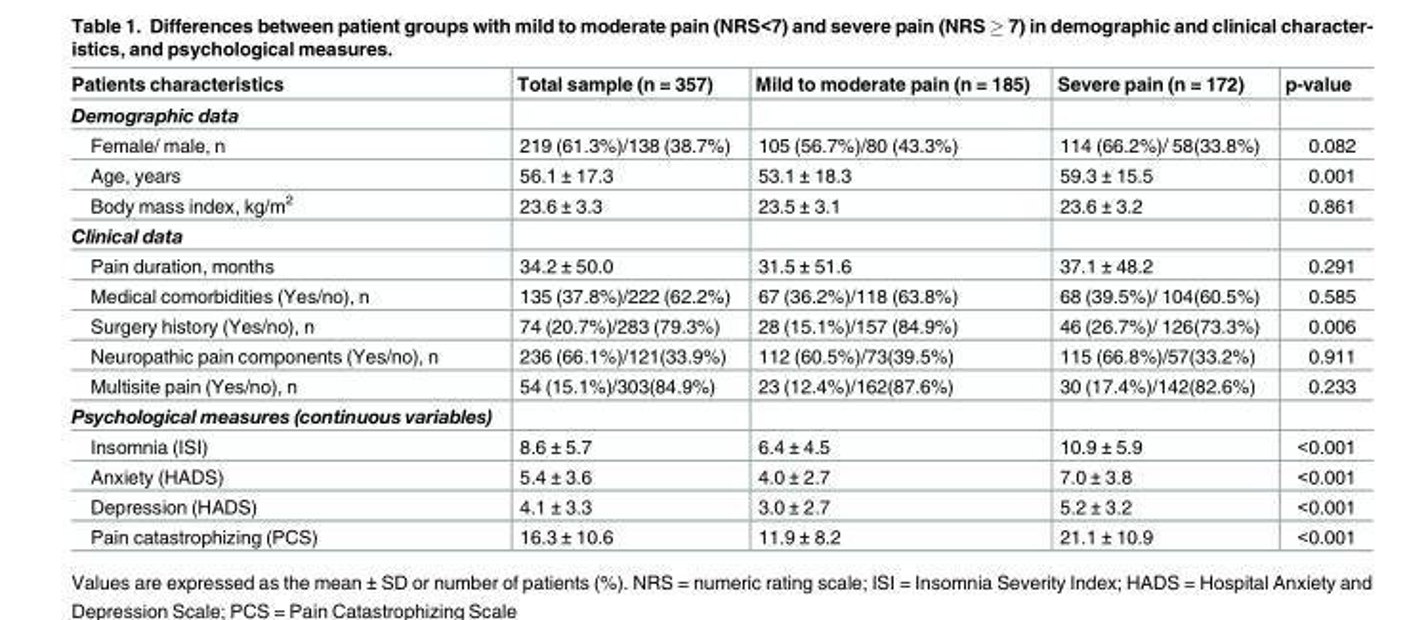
<table><thead><tr><td>Patients characteristics</td><td>Total sample (n = 357)</td><td>Mild to moderate pain (n = 185)</td><td>Severe pain (n = 172)</td><td>p-value</td></tr></thead><tbody><tr><td colspan="5">Demographic data</td></tr><tr><td>Female/ male, n</td><td>219 (61.3%)/138 (38.7%)</td><td>105 (56.7%)/80 (43.3%)</td><td>114 (66.2%)/ 58(33.8%)</td><td>0.082</td></tr><tr><td>Age, years</td><td>56.1 ± 17.3</td><td>53.1 ± 18.3</td><td>59.3 ± 15.5</td><td>0.001</td></tr><tr><td>Body mass index, kg/m<sup>2</sup></td><td>23.6 ± 3.3</td><td>23.5 ± 3.1</td><td>23.6 ± 3.2</td><td>0.861</td></tr><tr><td colspan="5">Clinical data</td></tr><tr><td>Pain duration, months</td><td>34.2 ± 50.0</td><td>31.5 ± 51.6</td><td>37.1 ± 48.2</td><td>0.291</td></tr><tr><td>Medical comorbidities (Yes/no), n</td><td>135 (37.8%)/222 (62.2%)</td><td>67 (36.2%)/118 (63.8%)</td><td>68 (39.5%)/ 104(60.5%)</td><td>0.585</td></tr><tr><td>Surgery history (Yes/no), n</td><td>74 (20.7%)/283 (79.3%)</td><td>28 (15.1%)/157 (84.9%)</td><td>46 (26.7%)/ 126(73.3%)</td><td>0.006</td></tr><tr><td>Neuropathic pain components (Yes/no), n</td><td>236 (66.1%)/121(33.9%)</td><td>112 (60.5%)/73(39.5%)</td><td>115 (66.8%)/57(33.2%)</td><td>0.911</td></tr><tr><td>Multisite pain (Yes/no), n</td><td>54 (15.1%)/303(84.9%)</td><td>23 (12.4%)/162(87.6%)</td><td>30 (17.4%)/142(82.6%)</td><td>0.233</td></tr><tr><td colspan="5">Psychological measures (continuous variables)</td></tr><tr><td>Insomnia (ISI)</td><td>8.6 ± 5.7</td><td>6.4 ± 4.5</td><td>10.9 ± 5.9</td><td>&lt;0.001</td></tr><tr><td>Anxiety (HADS)</td><td>5.4 ± 3.6</td><td>4.0 ± 2.7</td><td>7.0 ± 3.8</td><td>&lt;0.001</td></tr><tr><td>Depression (HADS)</td><td>4.1 ± 3.3</td><td>3.0 ± 2.7</td><td>5.2 ± 3.2</td><td>&lt;0.001</td></tr><tr><td>Pain catastrophizing (PCS)</td><td>16.3 ± 10.6</td><td>11.9 ± 8.2</td><td>21.1 ± 10.9</td><td>&lt;0.001</td></tr></tbody></table>